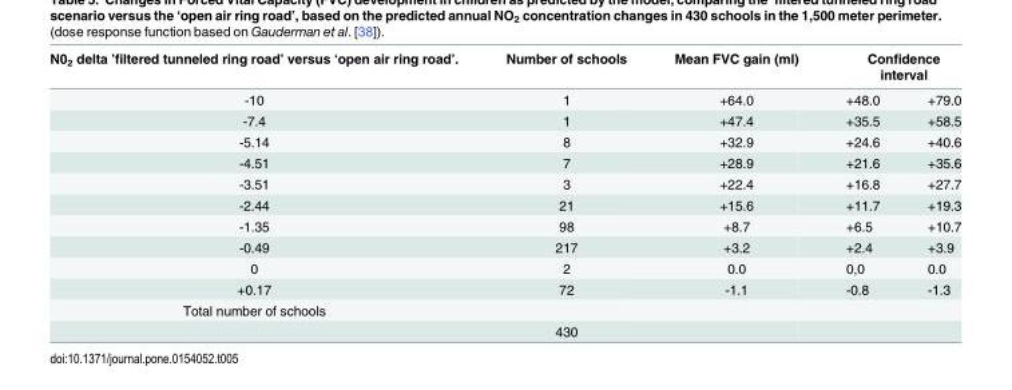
<table><thead><tr><td rowspan="2">N0<sub>2</sub> delta ’filtered tunneled ring road’ versus ‘open air ring road’. -10</td><td rowspan="2">Number of schools 1</td><td rowspan="2">Mean FVC gain (ml) +64.0</td><td colspan="2">Confidence interval</td></tr><tr><td>+48.0</td><td>+79.0</td></tr></thead><tbody><tr><td>-7.4</td><td>1</td><td>+47.4</td><td>+35.5</td><td>+58.5</td></tr><tr><td>-5.14</td><td>8</td><td>+32.9</td><td>+24.6</td><td>+40.6</td></tr><tr><td>-4.51</td><td>7</td><td>+28.9</td><td>+21.6</td><td>+35.6</td></tr><tr><td>-3.51</td><td>3</td><td>+22.4</td><td>+16.8</td><td>+27.7</td></tr><tr><td>-2.44</td><td>21</td><td>+15.6</td><td>+11.7</td><td>+19.3</td></tr><tr><td>-1.35</td><td>98</td><td>+8.7</td><td>+6.5</td><td>+10.7</td></tr><tr><td>-0.49</td><td>217</td><td>+3.2</td><td>+2.4</td><td>+3.9</td></tr><tr><td>0</td><td>2</td><td>0.0</td><td>0,0</td><td>0.0</td></tr><tr><td>+0.17</td><td>72</td><td>-1.1</td><td>-0.8</td><td>-1.3</td></tr><tr><td colspan="5">Total number of schools</td></tr><tr><td></td><td>430</td><td></td><td></td><td></td></tr></tbody></table>